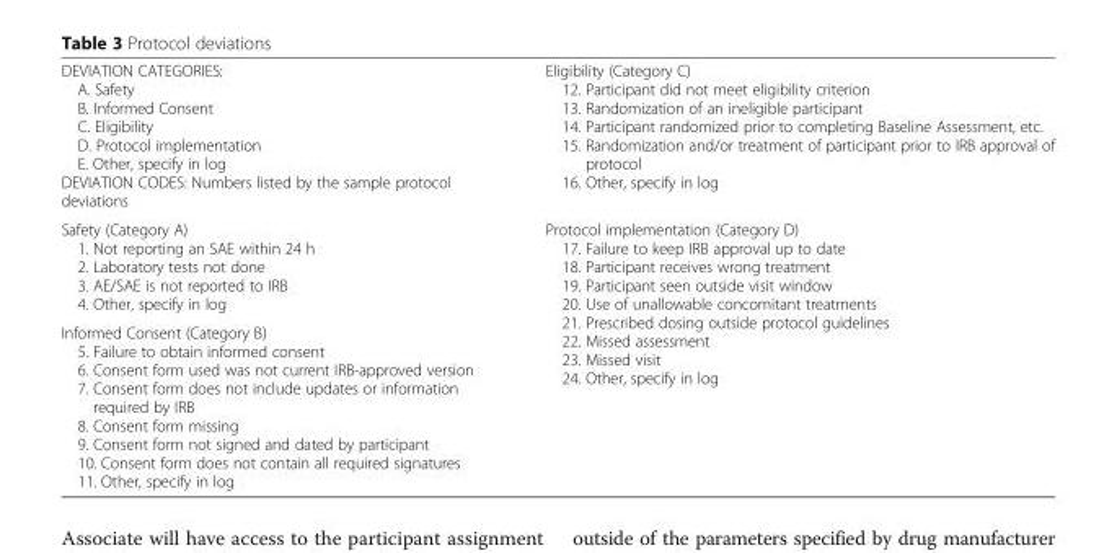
<table><tbody><tr><td>DEVIATION CATEGORIES: A. Safety B. Informed Consent C. Eligibility D. Protocol implementation E. Other, specify in log DEVIATION CODES: Numbers listed by the sample protocol deviations</td><td>Eligibility (Category C) 12. Participant did not meet eligibility criterion 13. Randomization of an ineligible participant 14. Participant randomized prior to completing Baseline Assessment, etc. 15. Randomization and/or treatment of participant prior to IRB approval of protocol 16. Other, specify in log</td></tr><tr><td>Safety (Category A) 1. Not reporting an SAE within 24 h 2. Laboratory tests not done 3. AE/SAE is not reported to IRB 4. Other, specify in log</td><td rowspan="2">Protocol implementation (Category D) 17. Failure to keep IRB approval up to date 18. Participant receives wrong treatment 19. Participant seen outside visit window 20. Use of unallowable concomitant treatments 21. Prescribed dosing outside protocol guidelines 22. Missed assessment 23. Missed visit 24. Other, specify in log</td></tr><tr><td>Informed Consent (Category B) 5. Failure to obtain informed consent 6. Consent form used was not current IRB-approved version 7. Consent form does not include updates or information required by IRB 8. Consent form missing 9. Consent form not signed and dated by participant 10. Consent form does not contain all required signatures 11. Other, specify in log</td></tr></tbody></table>